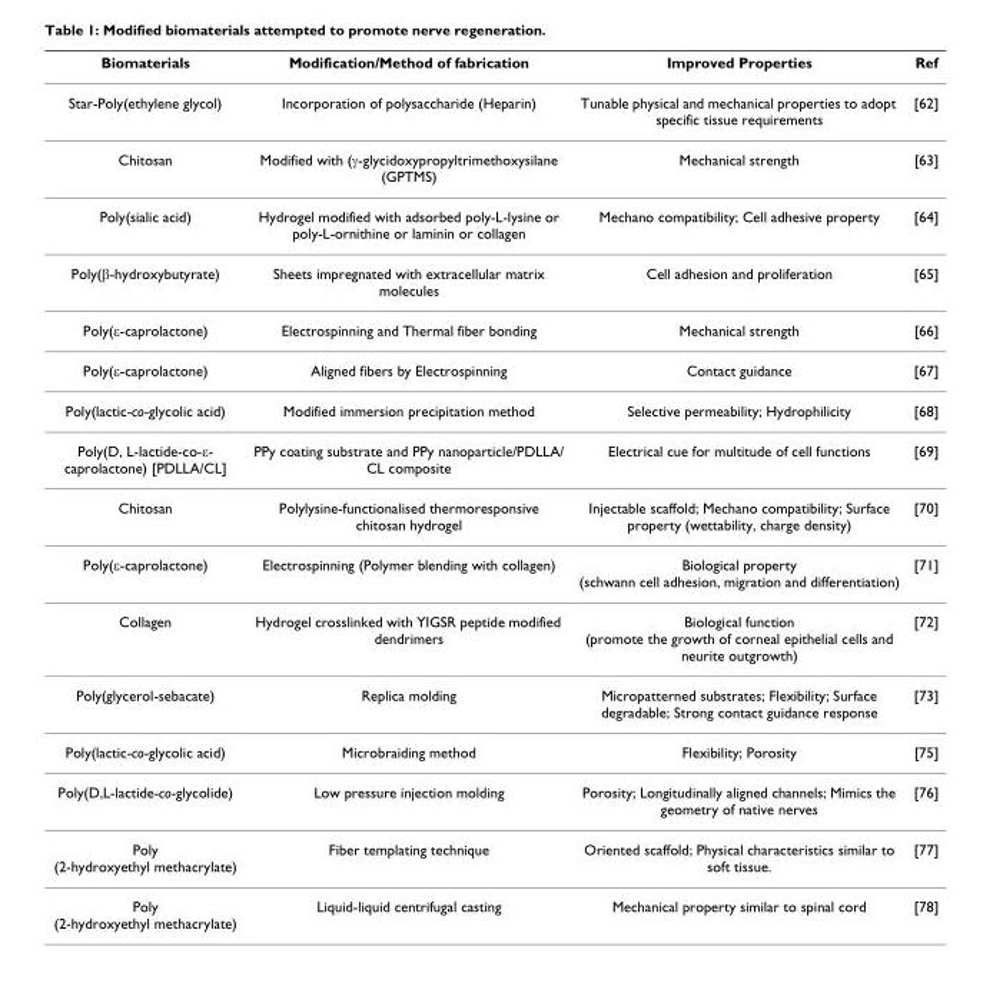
<table><thead><tr><td>Biomaterials</td><td>Modification/Method of fabrication</td><td>Improved Properties</td><td>Ref</td></tr></thead><tbody><tr><td>Star-Poly(ethylene glycol)</td><td>Incorporation of polysaccharide (Heparin)</td><td>Tunable physical and mechanical properties to adopt specific tissue requirements</td><td>[62]</td></tr><tr><td>Chitosan</td><td>Modified with (γ-glycidoxypropyltrimethoxysilane (GPTMS)</td><td>Mechanical strength</td><td>[63]</td></tr><tr><td>Poly(sialic acid)</td><td>Hydrogel modified with adsorbed poly-L-lysine or poly-L-ornithine or laminin or collagen</td><td>Mechano compatibility; Cell adhesive property</td><td>[64]</td></tr><tr><td>Poly(β-hydroxybutyrate)</td><td>Sheets impregnated with extracellular matrix molecules</td><td>Cell adhesion and proliferation</td><td>[65]</td></tr><tr><td>Poly(ε-caprolactone)</td><td>Electrospinning and Thermal fiber bonding</td><td>Mechanical strength</td><td>[66]</td></tr><tr><td>Poly(ε-caprolactone)</td><td>Aligned fibers by Electrospinning</td><td>Contact guidance</td><td>[67]</td></tr><tr><td>Poly(lactic-co-glycolic acid)</td><td>Modified immersion precipitation method</td><td>Selective permeability; Hydrophilicity</td><td>[68]</td></tr><tr><td>Poly(D, L-lactide-co-ε- caprolactone) [PDLLA/CL]</td><td>PPy coating substrate and PPy nanoparticle/PDLLA/ CL composite</td><td>Electrical cue for multitude of cell functions</td><td>[69]</td></tr><tr><td>Chitosan</td><td>Polylysine-functionalised thermoresponsive chitosan hydrogel</td><td>Injectable scaffold; Mechano compatibility; Surface property (wettability, charge density)</td><td>[70]</td></tr><tr><td>Poly(ε-caprolactone)</td><td>Electrospinning (Polymer blending with collagen)</td><td>Biological property (schwann cell adhesion, migration and differentiation)</td><td>[71]</td></tr><tr><td>Collagen</td><td>Hydrogel crosslinked with YIGSR peptide modified dendrimers</td><td>Biological function (promote the growth of corneal epithelial cells and neurite outgrowth)</td><td>[72]</td></tr><tr><td>Poly(glycerol-sebacate)</td><td>Replica molding</td><td>Micropatterned substrates; Flexibility; Surface degradable; Strong contact guidance response</td><td>[73]</td></tr><tr><td>Poly(lactic-co-glycolic acid)</td><td>Microbraiding method</td><td>Flexibility; Porosity</td><td>[75]</td></tr><tr><td>Poly(D,L-lactide-co-glycolide)</td><td>Low pressure injection molding</td><td>Porosity; Longitudinally aligned channels; Mimics the geometry of native nerves</td><td>[76]</td></tr><tr><td>Poly (2-hydroxyethyl methacrylate)</td><td>Fiber templating technique</td><td>Oriented scaffold; Physical characteristics similar to soft tissue.</td><td>[77]</td></tr><tr><td>Poly (2-hydroxyethyl methacrylate)</td><td>Liquid-liquid centrifugal casting</td><td>Mechanical property similar to spinal cord</td><td>[78]</td></tr></tbody></table>